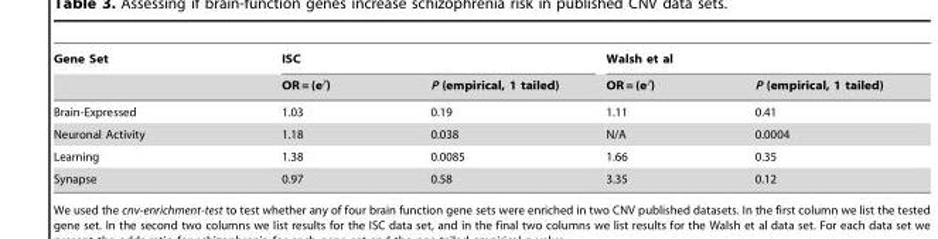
<table><thead><tr><td rowspan="2">Gene Set</td><td colspan="2">ISC</td><td colspan="2">Walsh et al</td></tr><tr><td>OR = (e<sup>γ</sup>)</td><td>P (empirical, 1 tailed)</td><td>OR = (e<sup>γ</sup>)</td><td>P (empirical, 1 tailed)</td></tr></thead><tbody><tr><td>Brain-Expressed</td><td>1.03</td><td>0.19</td><td>1.11</td><td>0.41</td></tr><tr><td>Neuronal Activity</td><td>1.18</td><td>0.038</td><td>N/A</td><td>0.0004</td></tr><tr><td>Learning</td><td>1.38</td><td>0.0085</td><td>1.66</td><td>0.35</td></tr><tr><td>Synapse</td><td>0.97</td><td>0.58</td><td>3.35</td><td>0.12</td></tr></tbody></table>